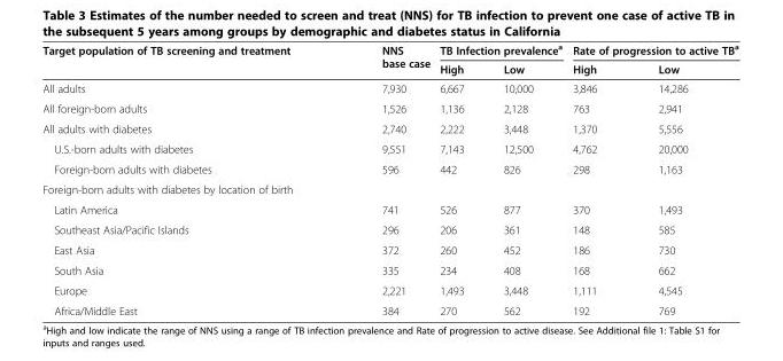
<table><thead><tr><td rowspan="2">Target population of TB screening and treatment</td><td rowspan="2">NNS base case</td><td colspan="2">TB Infection prevalence<sup>a</sup></td><td colspan="2">Rate of progression to active TB<sup>a</sup></td></tr><tr><td>High</td><td>Low</td><td>High</td><td>Low</td></tr></thead><tbody><tr><td>All adults</td><td>7,930</td><td>6,667</td><td>10,000</td><td>3,846</td><td>14,286</td></tr><tr><td>All foreign-born adults</td><td>1,526</td><td>1,136</td><td>2,128</td><td>763</td><td>2,941</td></tr><tr><td>All adults with diabetes</td><td>2,740</td><td>2,222</td><td>3,448</td><td>1,370</td><td>5,556</td></tr><tr><td>U.S.-born adults with diabetes</td><td>9,551</td><td>7,143</td><td>12,500</td><td>4,762</td><td>20,000</td></tr><tr><td>Foreign-born adults with diabetes</td><td>596</td><td>442</td><td>826</td><td>298</td><td>1,163</td></tr><tr><td colspan="6">Foreign-born adults with diabetes by location of birth</td></tr><tr><td>Latin America</td><td>741</td><td>526</td><td>877</td><td>370</td><td>1,493</td></tr><tr><td>Southeast Asia/Pacific Islands</td><td>296</td><td>206</td><td>361</td><td>148</td><td>585</td></tr><tr><td>East Asia</td><td>372</td><td>260</td><td>452</td><td>186</td><td>730</td></tr><tr><td>South Asia</td><td>335</td><td>234</td><td>408</td><td>168</td><td>662</td></tr><tr><td>Europe</td><td>2,221</td><td>1,493</td><td>3,448</td><td>1,111</td><td>4,545</td></tr><tr><td>Africa/Middle East</td><td>384</td><td>270</td><td>562</td><td>192</td><td>769</td></tr></tbody></table>